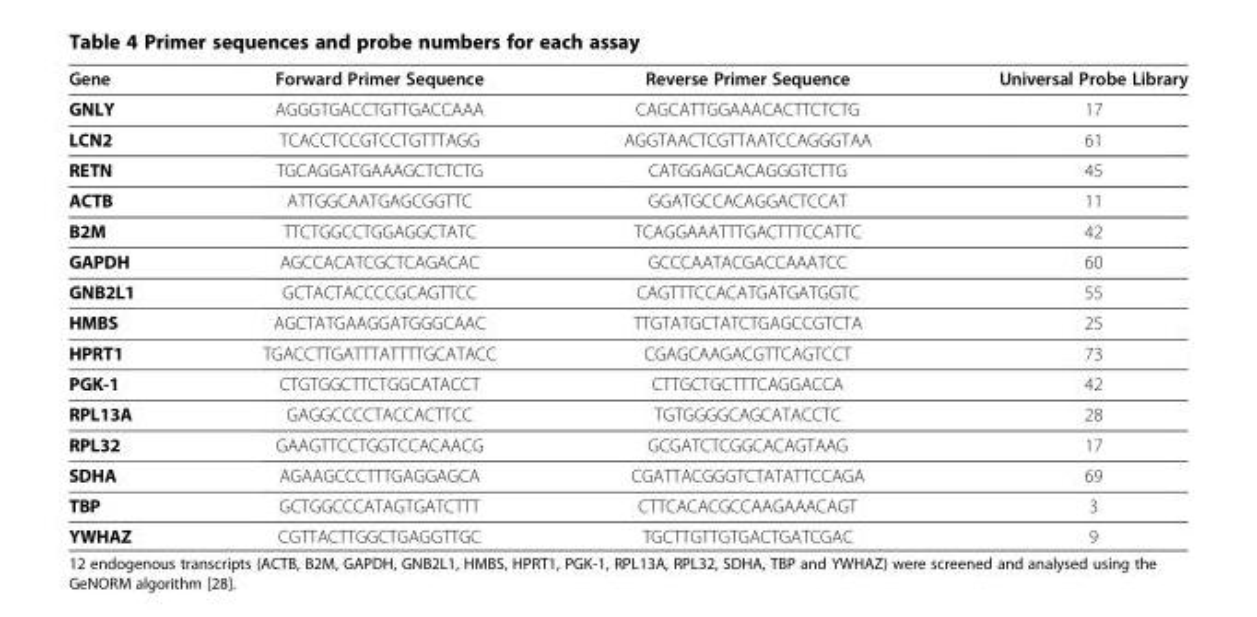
<table><thead><tr><td>Gene</td><td>Forward Primer Sequence</td><td>Reverse Primer Sequence</td><td>Universal Probe Library</td></tr></thead><tbody><tr><td>GNLY</td><td>AGGGTGACCTGTTGACCAAA</td><td>CAGCATTGGAAACACTTCTCTG</td><td>17</td></tr><tr><td>LCN2</td><td>TCACCTCCGTCCTGTTTAGG</td><td>AGGTAACTCGTTAATCCAGGGTAA</td><td>61</td></tr><tr><td>RETN</td><td>TGCAGGATGAAAGCTCTCTG</td><td>CATGGAGCACAGGGTCTTG</td><td>45</td></tr><tr><td>ACTB</td><td>ATTGGCAATGAGCGGTTC</td><td>GGATGCCACAGGACTCCAT</td><td>11</td></tr><tr><td>B2M</td><td>TTCTGGCCTGGAGGCTATC</td><td>TCAGGAAATTTGACTTTCCATTC</td><td>42</td></tr><tr><td>GAPDH</td><td>AGCCACATCGCTCAGACAC</td><td>GCCCAATACGACCAAATCC</td><td>60</td></tr><tr><td>GNB2L1</td><td>GCTACTACCCCGCAGTTCC</td><td>CAGTTTCCACATGATGATGGTC</td><td>55</td></tr><tr><td>HMBS</td><td>AGCTATGAAGGATGGGCAAC</td><td>TTGTATGCTATCTGAGCCGTCTA</td><td>25</td></tr><tr><td>HPRT1</td><td>TGACCTTGATTTATTTTGCATACC</td><td>CGAGCAAGACGTTCAGTCCT</td><td>73</td></tr><tr><td>PGK-1</td><td>CTGTGGCTTCTGGCATACCT</td><td>CTTGCTGCTTTCAGGACCA</td><td>42</td></tr><tr><td>RPL13A</td><td>GAGGCCCCTACCACTTCC</td><td>TGTGGGGCAGCATACCTC</td><td>28</td></tr><tr><td>RPL32</td><td>GAAGTTCCTGGTCCACAACG</td><td>GCGATCTCGGCACAGTAAG</td><td>17</td></tr><tr><td>SDHA</td><td>AGAAGCCCTTTGAGGAGCA</td><td>CGATTACGGGTCTATATTCCAGA</td><td>69</td></tr><tr><td>TBP</td><td>GCTGGCCCATAGTGATCTTT</td><td>CTTCACACGCCAAGAAACAGT</td><td>3</td></tr><tr><td>YWHAZ</td><td>CGTTACTTGGCTGAGGTTGC</td><td>TGCTTGTTGTGACTGATCGAC</td><td>9</td></tr></tbody></table>